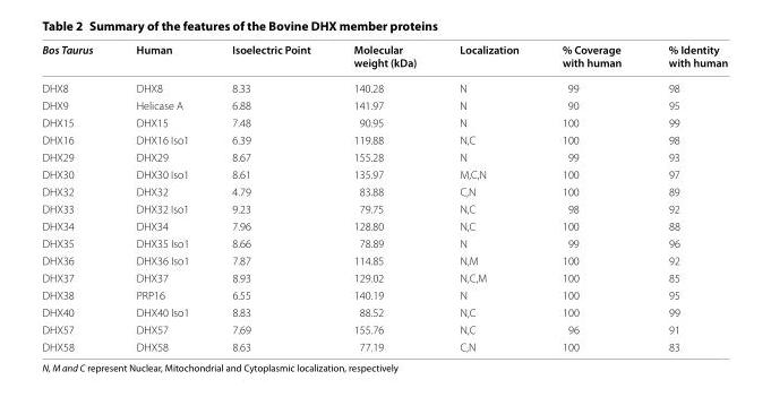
<table><thead><tr><td>Bos Taurus</td><td>Human</td><td>Isoelectric Point</td><td>Molecular weight (kDa)</td><td>Localization</td><td>% Coverage with human</td><td>% Identity with human</td></tr></thead><tbody><tr><td>DHX8</td><td>DHX8</td><td>8.33</td><td>140.28</td><td>N</td><td>99</td><td>98</td></tr><tr><td>DHX9</td><td>Helicase A</td><td>6.88</td><td>141.97</td><td>N</td><td>90</td><td>95</td></tr><tr><td>DHX15</td><td>DHX15</td><td>7.48</td><td>90.95</td><td>N</td><td>100</td><td>99</td></tr><tr><td>DHX16</td><td>DHX16 Iso1</td><td>6.39</td><td>119.88</td><td>N,C</td><td>100</td><td>98</td></tr><tr><td>DHX29</td><td>DHX29</td><td>8.67</td><td>155.28</td><td>N</td><td>99</td><td>93</td></tr><tr><td>DHX30</td><td>DHX30 Iso1</td><td>8.61</td><td>135.97</td><td>M,C,N</td><td>100</td><td>97</td></tr><tr><td>DHX32</td><td>DHX32</td><td>4.79</td><td>83.88</td><td>C,N</td><td>100</td><td>89</td></tr><tr><td>DHX33</td><td>DHX32 Iso1</td><td>9.23</td><td>79.75</td><td>N,C</td><td>98</td><td>92</td></tr><tr><td>DHX34</td><td>DHX34</td><td>7.96</td><td>128.80</td><td>N,C</td><td>100</td><td>88</td></tr><tr><td>DHX35</td><td>DHX35 Iso1</td><td>8.66</td><td>78.89</td><td>N</td><td>99</td><td>96</td></tr><tr><td>DHX36</td><td>DHX36 Iso1</td><td>7.87</td><td>114.85</td><td>N,M</td><td>100</td><td>92</td></tr><tr><td>DHX37</td><td>DHX37</td><td>8.93</td><td>129.02</td><td>N,C,M</td><td>100</td><td>85</td></tr><tr><td>DHX38</td><td>PRP16</td><td>6.55</td><td>140.19</td><td>N</td><td>100</td><td>95</td></tr><tr><td>DHX40</td><td>DHX40 Iso1</td><td>8.83</td><td>88.52</td><td>N,C</td><td>100</td><td>99</td></tr><tr><td>DHX57</td><td>DHX57</td><td>7.69</td><td>155.76</td><td>N,C</td><td>96</td><td>91</td></tr><tr><td>DHX58</td><td>DHX58</td><td>8.63</td><td>77.19</td><td>C,N</td><td>100</td><td>83</td></tr></tbody></table>